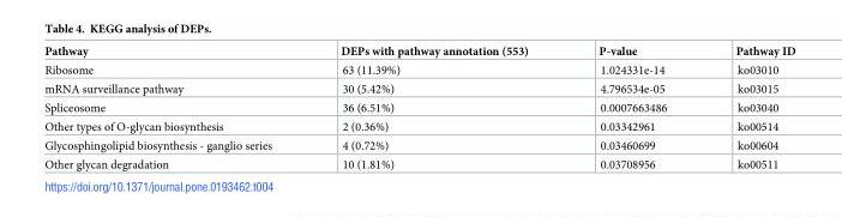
<table><thead><tr><td>Pathway</td><td>DEPs with pathway annotation (553)</td><td>P-value</td><td>Pathway ID</td></tr></thead><tbody><tr><td>Ribosome</td><td>63 (11.39%)</td><td>1.024331e-14</td><td>ko03010</td></tr><tr><td>mRNA surveillance pathway</td><td>30 (5.42%)</td><td>4.796534e-05</td><td>ko03015</td></tr><tr><td>Spliceosome</td><td>36 (6.51%)</td><td>0.0007663486</td><td>ko03040</td></tr><tr><td>Other types of O-glycan biosynthesis</td><td>2 (0.36%)</td><td>0.03342961</td><td>ko00514</td></tr><tr><td>Glycosphingolipid biosynthesis - ganglio series</td><td>4 (0.72%)</td><td>0.03460699</td><td>ko00604</td></tr><tr><td>Other glycan degradation</td><td>10 (1.81%)</td><td>0.03708956</td><td>ko00511</td></tr></tbody></table>